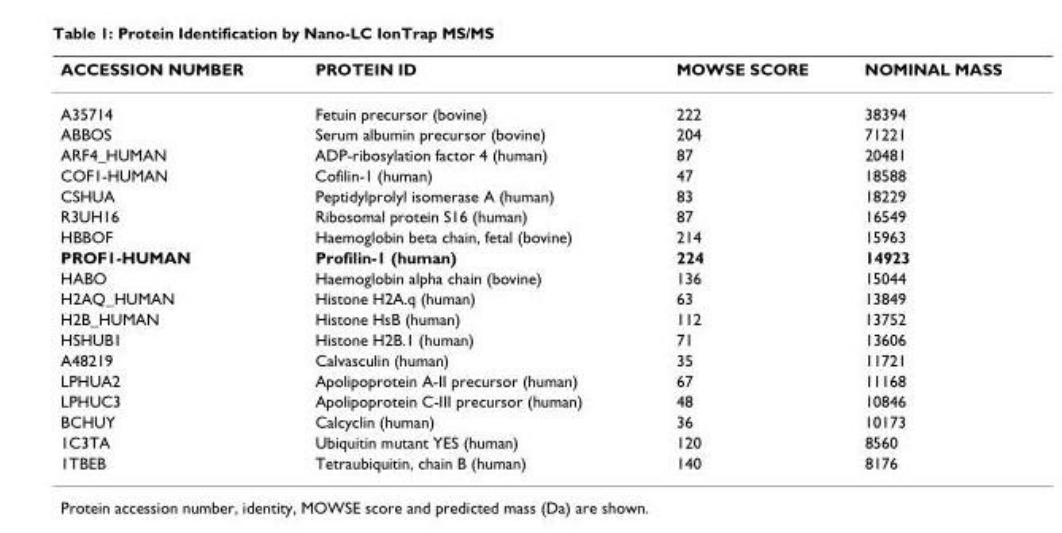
<table><thead><tr><td>ACCESSION NUMBER</td><td>PROTEIN ID</td><td>MOWSE SCORE</td><td>NOMINAL MASS</td></tr></thead><tbody><tr><td>A35714</td><td>Fetuin precursor (bovine)</td><td>222</td><td>38394</td></tr><tr><td>ABBOS</td><td>Serum albumin precursor (bovine)</td><td>204</td><td>71221</td></tr><tr><td>ARF4_HUMAN</td><td>ADP-ribosylation factor 4 (human)</td><td>87</td><td>20481</td></tr><tr><td>COF1-HUMAN</td><td>Cofilin-1 (human)</td><td>47</td><td>18588</td></tr><tr><td>CSHUA</td><td>Peptidylprolyl isomerase A (human)</td><td>83</td><td>18229</td></tr><tr><td>R3UH16</td><td>Ribosomal protein S16 (human)</td><td>87</td><td>16549</td></tr><tr><td>HBBOF</td><td>Haemoglobin beta chain, fetal (bovine)</td><td>214</td><td>15963</td></tr><tr><td>PROF1-HUMAN</td><td>Profilin-1 (human)</td><td>224</td><td>14923</td></tr><tr><td>HABO</td><td>Haemoglobin alpha chain (bovine)</td><td>136</td><td>15044</td></tr><tr><td>H2AQ_HUMAN</td><td>Histone H2A.q (human)</td><td>63</td><td>13849</td></tr><tr><td>H2B_HUMAN</td><td>Histone HsB (human)</td><td>112</td><td>13752</td></tr><tr><td>HSHUB1</td><td>Histone H2B.1 (human)</td><td>71</td><td>13606</td></tr><tr><td>A48219</td><td>Calvasculin (human)</td><td>35</td><td>11721</td></tr><tr><td>LPHUA2</td><td>Apolipoprotein A-II precursor (human)</td><td>67</td><td>11168</td></tr><tr><td>LPHUC3</td><td>Apolipoprotein C-III precursor (human)</td><td>48</td><td>10846</td></tr><tr><td>BCHUY</td><td>Calcyclin (human)</td><td>36</td><td>10173</td></tr><tr><td>1C3TA</td><td>Ubiquitin mutant YES (human)</td><td>120</td><td>8560</td></tr><tr><td>1TBEB</td><td>Tetraubiquitin, chain B (human)</td><td>140</td><td>8176</td></tr></tbody></table>